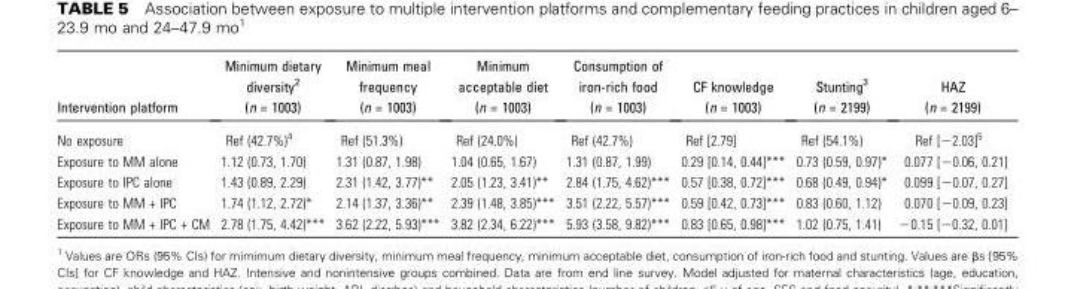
<table><thead><tr><td>Intervention platform</td><td>Minimum dietary diversity<sup>2</sup> (n = 1003)</td><td>Minimum meal frequency (n = 1003)</td><td>Minimum acceptable diet (n = 1003)</td><td>Consumption of iron-rich food (n = 1003)</td><td>CF knowledge (n = 1003)</td><td>Stunting<sup>3</sup> (n = 2199)</td><td>HAZ (n = 2199)</td></tr></thead><tbody><tr><td>No exposure</td><td>Ref (42.7%)<sup>4</sup></td><td>Ref (51.3%)</td><td>Ref (24.0%)</td><td>Ref (42.7%)</td><td>Ref [2.79]</td><td>Ref (54.1%)</td><td>Ref [−2.03]<sup>5</sup></td></tr><tr><td>Exposure to MM alone</td><td>1.12 (0.73, 1.70)</td><td>1.31 (0.87, 1.98)</td><td>1.04 (0.65, 1.67)</td><td>1.31 (0.87, 1.99)</td><td>0.29 [0.14, 0.44]***</td><td>0.73 (0.59, 0.97)*</td><td>0.077 [−0.06, 0.21]</td></tr><tr><td>Exposure to IPC alone</td><td>1.43 (0.89, 2.29)</td><td>2.31 (1.42, 3.77)**</td><td>2.05 (1.23, 3.41)**</td><td>2.84 (1.75, 4.62)***</td><td>0.57 [0.38, 0.72]***</td><td>0.68 (0.49, 0.94)*</td><td>0.099 [−0.07, 0.27]</td></tr><tr><td>Exposure to MM + IPC</td><td>1.74 (1.12, 2.72)*</td><td>2.14 (1.37, 3.36)**</td><td>2.39 (1.48, 3.85)***</td><td>3.51 (2.22, 5.57)***</td><td>0.59 [0.42, 0.73]***</td><td>0.83 (0.60, 1.12)</td><td>0.070 [−0.09, 0.23]</td></tr><tr><td>Exposure to MM + IPC + CM</td><td>2.78 (1.75, 4.42)***</td><td>3.62 (2.22, 5.93)***</td><td>3.82 (2.34, 6.22)***</td><td>5.93 (3.58, 9.82)***</td><td>0.83 [0.65, 0.98]***</td><td>1.02 (0.75, 1.41)</td><td>−0.15 [−0.32, 0.01]</td></tr></tbody></table>